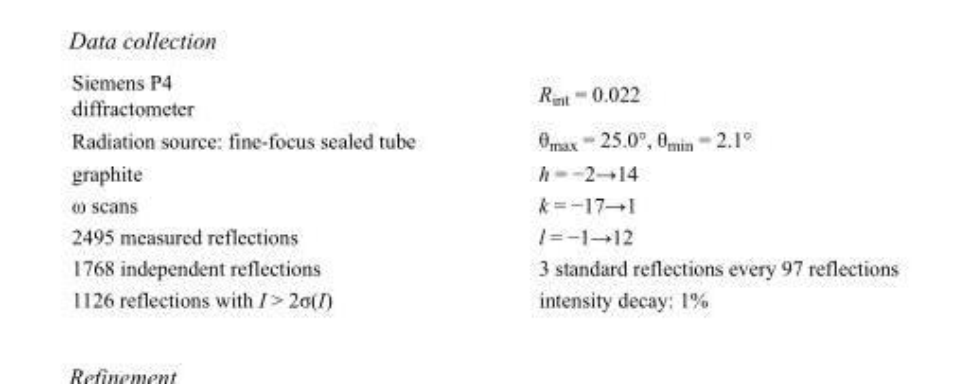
<table><tbody><tr><td>Siemens P4 diffractometer</td><td>R<sub>int</sub> = 0.022</td></tr><tr><td>Radiation source: fine-focus sealed tube</td><td>θ<sub>max</sub> = 25.0°, θ<sub>min</sub> = 2.1°</td></tr><tr><td>graphite</td><td>h = −2→14</td></tr><tr><td>ω scans</td><td>k = −17→1</td></tr><tr><td>2495 measured reflections</td><td>l = −1→12</td></tr><tr><td>1768 independent reflections</td><td>3 standard reflections every 97 reflections</td></tr><tr><td>1126 reflections with I &gt; 2σ(I)</td><td>intensity decay: 1%</td></tr></tbody></table>